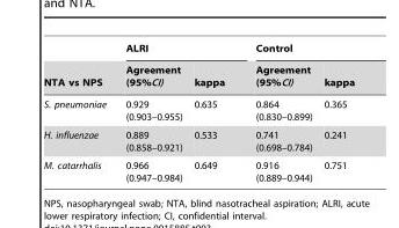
<table><thead><tr><td rowspan="2">NTA vs NPS</td><td colspan="2">ALRI</td><td colspan="2">Control</td></tr><tr><td>Agreement (95%CI)</td><td>kappa</td><td>Agreement (95%CI)</td><td>kappa</td></tr></thead><tbody><tr><td>S. pneumoniae</td><td>0.929 (0.903–0.955)</td><td>0.635</td><td>0.864 (0.830–0.899)</td><td>0.365</td></tr><tr><td>H. influenzae</td><td>0.889 (0.858–0.921)</td><td>0.533</td><td>0.741 (0.698–0.784)</td><td>0.241</td></tr><tr><td>M. catarrhalis</td><td>0.966 (0.947–0.984)</td><td>0.649</td><td>0.916 (0.889–0.944)</td><td>0.751</td></tr></tbody></table>